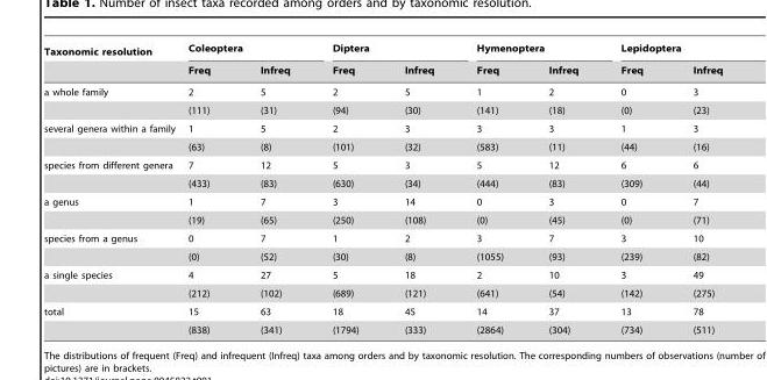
<table><thead><tr><td rowspan="2">Taxonomic resolution</td><td colspan="2">Coleoptera</td><td colspan="2">Diptera</td><td colspan="2">Hymenoptera</td><td colspan="2">Lepidoptera</td></tr><tr><td>Freq</td><td>Infreq</td><td>Freq</td><td>Infreq</td><td>Freq</td><td>Infreq</td><td>Freq</td><td>Infreq</td></tr></thead><tbody><tr><td rowspan="2">a whole family</td><td>2</td><td>5</td><td>2</td><td>5</td><td>1</td><td>2</td><td>0</td><td>3</td></tr><tr><td>(111)</td><td>(31)</td><td>(94)</td><td>(30)</td><td>(141)</td><td>(18)</td><td>(0)</td><td>(23)</td></tr><tr><td rowspan="2">several genera within a family</td><td>1</td><td>5</td><td>2</td><td>3</td><td>3</td><td>3</td><td>1</td><td>3</td></tr><tr><td>(63)</td><td>(8)</td><td>(101)</td><td>(32)</td><td>(583)</td><td>(11)</td><td>(44)</td><td>(16)</td></tr><tr><td rowspan="2">species from different genera</td><td>7</td><td>12</td><td>5</td><td>3</td><td>5</td><td>12</td><td>6</td><td>6</td></tr><tr><td>(433)</td><td>(83)</td><td>(630)</td><td>(34)</td><td>(444)</td><td>(83)</td><td>(309)</td><td>(44)</td></tr><tr><td rowspan="2">a genus</td><td>1</td><td>7</td><td>3</td><td>14</td><td>0</td><td>3</td><td>0</td><td>7</td></tr><tr><td>(19)</td><td>(65)</td><td>(250)</td><td>(108)</td><td>(0)</td><td>(45)</td><td>(0)</td><td>(71)</td></tr><tr><td rowspan="2">species from a genus</td><td>0</td><td>7</td><td>1</td><td>2</td><td>3</td><td>7</td><td>3</td><td>10</td></tr><tr><td>(0)</td><td>(52)</td><td>(30)</td><td>(8)</td><td>(1055)</td><td>(93)</td><td>(239)</td><td>(82)</td></tr><tr><td rowspan="2">a single species</td><td>4</td><td>27</td><td>5</td><td>18</td><td>2</td><td>10</td><td>3</td><td>49</td></tr><tr><td>(212)</td><td>(102)</td><td>(689)</td><td>(121)</td><td>(641)</td><td>(54)</td><td>(142)</td><td>(275)</td></tr><tr><td rowspan="2">total</td><td>15</td><td>63</td><td>18</td><td>45</td><td>14</td><td>37</td><td>13</td><td>78</td></tr><tr><td>(838)</td><td>(341)</td><td>(1794)</td><td>(333)</td><td>(2864)</td><td>(304)</td><td>(734)</td><td>(511)</td></tr></tbody></table>